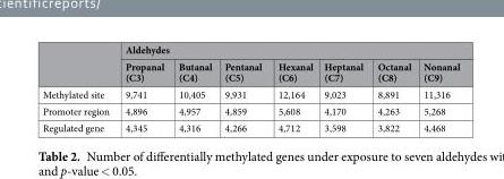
<table><thead><tr><td rowspan="2"></td><td colspan="7">Aldehydes</td></tr><tr><td>Propanal (C3)</td><td>Butanal (C4)</td><td>Pentanal (C5)</td><td>Hexanal (C6)</td><td>Heptanal (C7)</td><td>Octanal (C8)</td><td>Nonanal (C9)</td></tr></thead><tbody><tr><td>Methylated site</td><td>9,741</td><td>10,405</td><td>9,931</td><td>12,164</td><td>9,023</td><td>8,891</td><td>11,316</td></tr><tr><td>Promoter region</td><td>4,896</td><td>4,957</td><td>4,859</td><td>5,608</td><td>4,170</td><td>4,263</td><td>5,268</td></tr><tr><td>Regulated gene</td><td>4,345</td><td>4,316</td><td>4,266</td><td>4,712</td><td>3,598</td><td>3,822</td><td>4,468</td></tr></tbody></table>